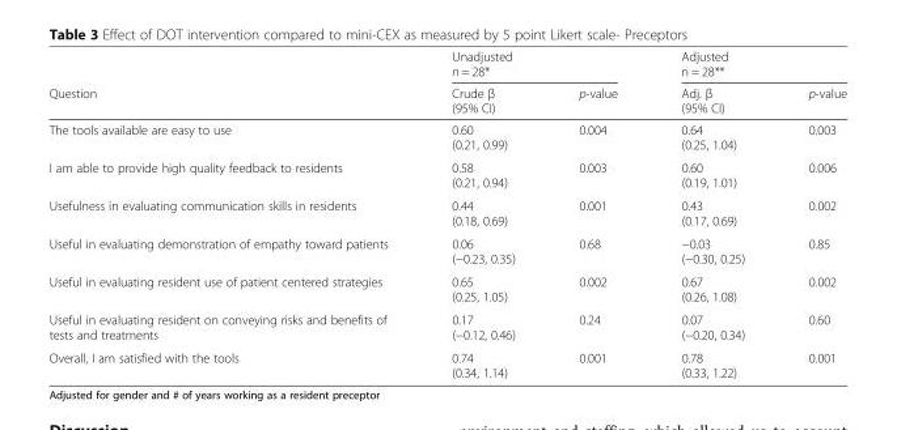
<table><thead><tr><td rowspan="2">Question</td><td colspan="2">Unadjusted n = 28*</td><td colspan="2">Adjusted n = 28**</td></tr><tr><td>Crude β (95% CI)</td><td>p-value</td><td>Adj. β (95% CI)</td><td>p-value</td></tr></thead><tbody><tr><td>The tools available are easy to use</td><td>0.60 (0.21, 0.99)</td><td>0.004</td><td>0.64 (0.25, 1.04)</td><td>0.003</td></tr><tr><td>I am able to provide high quality feedback to residents</td><td>0.58 (0.21, 0.94)</td><td>0.003</td><td>0.60 (0.19, 1.01)</td><td>0.006</td></tr><tr><td>Usefulness in evaluating communication skills in residents</td><td>0.44 (0.18, 0.69)</td><td>0.001</td><td>0.43 (0.17, 0.69)</td><td>0.002</td></tr><tr><td>Useful in evaluating demonstration of empathy toward patients</td><td>0.06 (−0.23, 0.35)</td><td>0.68</td><td>−0.03 (−0.30, 0.25)</td><td>0.85</td></tr><tr><td>Useful in evaluating resident use of patient centered strategies</td><td>0.65 (0.25, 1.05)</td><td>0.002</td><td>0.67 (0.26, 1.08)</td><td>0.002</td></tr><tr><td>Useful in evaluating resident on conveying risks and benefits of tests and treatments</td><td>0.17 (−0.12, 0.46)</td><td>0.24</td><td>0.07 (−0.20, 0.34)</td><td>0.60</td></tr><tr><td>Overall, I am satisfied with the tools</td><td>0.74 (0.34, 1.14)</td><td>0.001</td><td>0.78 (0.33, 1.22)</td><td>0.001</td></tr></tbody></table>